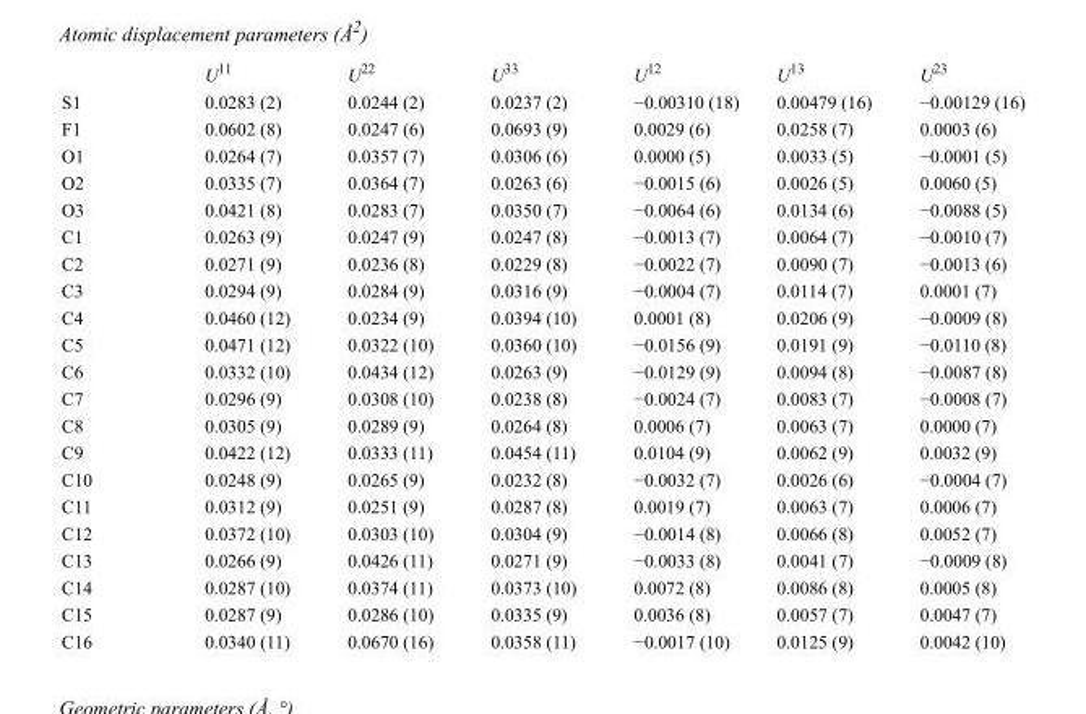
<table><thead><tr><td></td><td>U<sup>11</sup></td><td>U<sup>22</sup></td><td>U<sup>33</sup></td><td>U<sup>12</sup></td><td>U<sup>13</sup></td><td>U<sup>23</sup></td></tr></thead><tbody><tr><td>S1</td><td>0.0283 (2)</td><td>0.0244 (2)</td><td>0.0237 (2)</td><td>−0.00310 (18)</td><td>0.00479 (16)</td><td>−0.00129 (16)</td></tr><tr><td>F1</td><td>0.0602 (8)</td><td>0.0247 (6)</td><td>0.0693 (9)</td><td>0.0029 (6)</td><td>0.0258 (7)</td><td>0.0003 (6)</td></tr><tr><td>O1</td><td>0.0264 (7)</td><td>0.0357 (7)</td><td>0.0306 (6)</td><td>0.0000 (5)</td><td>0.0033 (5)</td><td>−0.0001 (5)</td></tr><tr><td>O2</td><td>0.0335 (7)</td><td>0.0364 (7)</td><td>0.0263 (6)</td><td>−0.0015 (6)</td><td>0.0026 (5)</td><td>0.0060 (5)</td></tr><tr><td>O3</td><td>0.0421 (8)</td><td>0.0283 (7)</td><td>0.0350 (7)</td><td>−0.0064 (6)</td><td>0.0134 (6)</td><td>−0.0088 (5)</td></tr><tr><td>C1</td><td>0.0263 (9)</td><td>0.0247 (9)</td><td>0.0247 (8)</td><td>−0.0013 (7)</td><td>0.0064 (7)</td><td>−0.0010 (7)</td></tr><tr><td>C2</td><td>0.0271 (9)</td><td>0.0236 (8)</td><td>0.0229 (8)</td><td>−0.0022 (7)</td><td>0.0090 (7)</td><td>−0.0013 (6)</td></tr><tr><td>C3</td><td>0.0294 (9)</td><td>0.0284 (9)</td><td>0.0316 (9)</td><td>−0.0004 (7)</td><td>0.0114 (7)</td><td>0.0001 (7)</td></tr><tr><td>C4</td><td>0.0460 (12)</td><td>0.0234 (9)</td><td>0.0394 (10)</td><td>0.0001 (8)</td><td>0.0206 (9)</td><td>−0.0009 (8)</td></tr><tr><td>C5</td><td>0.0471 (12)</td><td>0.0322 (10)</td><td>0.0360 (10)</td><td>−0.0156 (9)</td><td>0.0191 (9)</td><td>−0.0110 (8)</td></tr><tr><td>C6</td><td>0.0332 (10)</td><td>0.0434 (12)</td><td>0.0263 (9)</td><td>−0.0129 (9)</td><td>0.0094 (8)</td><td>−0.0087 (8)</td></tr><tr><td>C7</td><td>0.0296 (9)</td><td>0.0308 (10)</td><td>0.0238 (8)</td><td>−0.0024 (7)</td><td>0.0083 (7)</td><td>−0.0008 (7)</td></tr><tr><td>C8</td><td>0.0305 (9)</td><td>0.0289 (9)</td><td>0.0264 (8)</td><td>0.0006 (7)</td><td>0.0063 (7)</td><td>0.0000 (7)</td></tr><tr><td>C9</td><td>0.0422 (12)</td><td>0.0333 (11)</td><td>0.0454 (11)</td><td>0.0104 (9)</td><td>0.0062 (9)</td><td>0.0032 (9)</td></tr><tr><td>C10</td><td>0.0248 (9)</td><td>0.0265 (9)</td><td>0.0232 (8)</td><td>−0.0032 (7)</td><td>0.0026 (6)</td><td>−0.0004 (7)</td></tr><tr><td>C11</td><td>0.0312 (9)</td><td>0.0251 (9)</td><td>0.0287 (8)</td><td>0.0019 (7)</td><td>0.0063 (7)</td><td>0.0006 (7)</td></tr><tr><td>C12</td><td>0.0372 (10)</td><td>0.0303 (10)</td><td>0.0304 (9)</td><td>−0.0014 (8)</td><td>0.0066 (8)</td><td>0.0052 (7)</td></tr><tr><td>C13</td><td>0.0266 (9)</td><td>0.0426 (11)</td><td>0.0271 (9)</td><td>−0.0033 (8)</td><td>0.0041 (7)</td><td>−0.0009 (8)</td></tr><tr><td>C14</td><td>0.0287 (10)</td><td>0.0374 (11)</td><td>0.0373 (10)</td><td>0.0072 (8)</td><td>0.0086 (8)</td><td>0.0005 (8)</td></tr><tr><td>C15</td><td>0.0287 (9)</td><td>0.0286 (10)</td><td>0.0335 (9)</td><td>0.0036 (8)</td><td>0.0057 (7)</td><td>0.0047 (7)</td></tr><tr><td>C16</td><td>0.0340 (11)</td><td>0.0670 (16)</td><td>0.0358 (11)</td><td>−0.0017 (10)</td><td>0.0125 (9)</td><td>0.0042 (10)</td></tr></tbody></table>